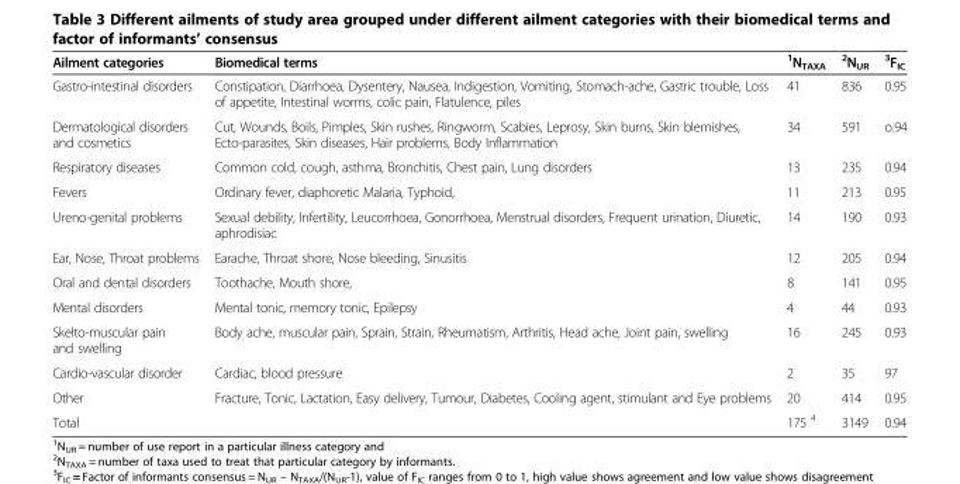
<table><thead><tr><td>Ailment categories</td><td>Biomedical terms</td><td><sup>1</sup>N<sub>TAXA</sub></td><td><sup>2</sup>N<sub>UR</sub></td><td><sup>3</sup>F<sub>IC</sub></td></tr></thead><tbody><tr><td>Gastro-intestinal disorders</td><td>Constipation, Diarrhoea, Dysentery, Nausea, Indigestion, Vomiting, Stomach-ache, Gastric trouble, Loss of appetite, Intestinal worms, colic pain, Flatulence, piles</td><td>41</td><td>836</td><td>0.95</td></tr><tr><td>Dermatological disorders and cosmetics</td><td>Cut, Wounds, Boils, Pimples, Skin rushes, Ringworm, Scabies, Leprosy, Skin burns, Skin blemishes, Ecto-parasites, Skin diseases, Hair problems, Body Inflammation</td><td>34</td><td>591</td><td>o.94</td></tr><tr><td>Respiratory diseases</td><td>Common cold, cough, asthma, Bronchitis, Chest pain, Lung disorders</td><td>13</td><td>235</td><td>0.94</td></tr><tr><td>Fevers</td><td>Ordinary fever, diaphoretic Malaria, Typhoid,</td><td>11</td><td>213</td><td>0.95</td></tr><tr><td>Ureno-genital problems</td><td>Sexual debility, Infertility, Leucorrhoea, Gonorrhoea, Menstrual disorders, Frequent urination, Diuretic, aphrodisiac</td><td>14</td><td>190</td><td>0.93</td></tr><tr><td>Ear, Nose, Throat problems</td><td>Earache, Throat shore, Nose bleeding, Sinusitis</td><td>12</td><td>205</td><td>0.94</td></tr><tr><td>Oral and dental disorders</td><td>Toothache, Mouth shore,</td><td>8</td><td>141</td><td>0.95</td></tr><tr><td>Mental disorders</td><td>Mental tonic, memory tonic, Epilepsy</td><td>4</td><td>44</td><td>0.93</td></tr><tr><td>Skelto-muscular pain and swelling</td><td>Body ache, muscular pain, Sprain, Strain, Rheumatism, Arthritis, Head ache, Joint pain, swelling</td><td>16</td><td>245</td><td>0.93</td></tr><tr><td>Cardio-vascular disorder</td><td>Cardiac, blood pressure</td><td>2</td><td>35</td><td>97</td></tr><tr><td>Other</td><td>Fracture, Tonic, Lactation, Easy delivery, Tumour, Diabetes, Cooling agent, stimulant and Eye problems</td><td>20</td><td>414</td><td>0.95</td></tr><tr><td>Total</td><td></td><td>175 <sup>4</sup></td><td>3149</td><td>0.94</td></tr></tbody></table>